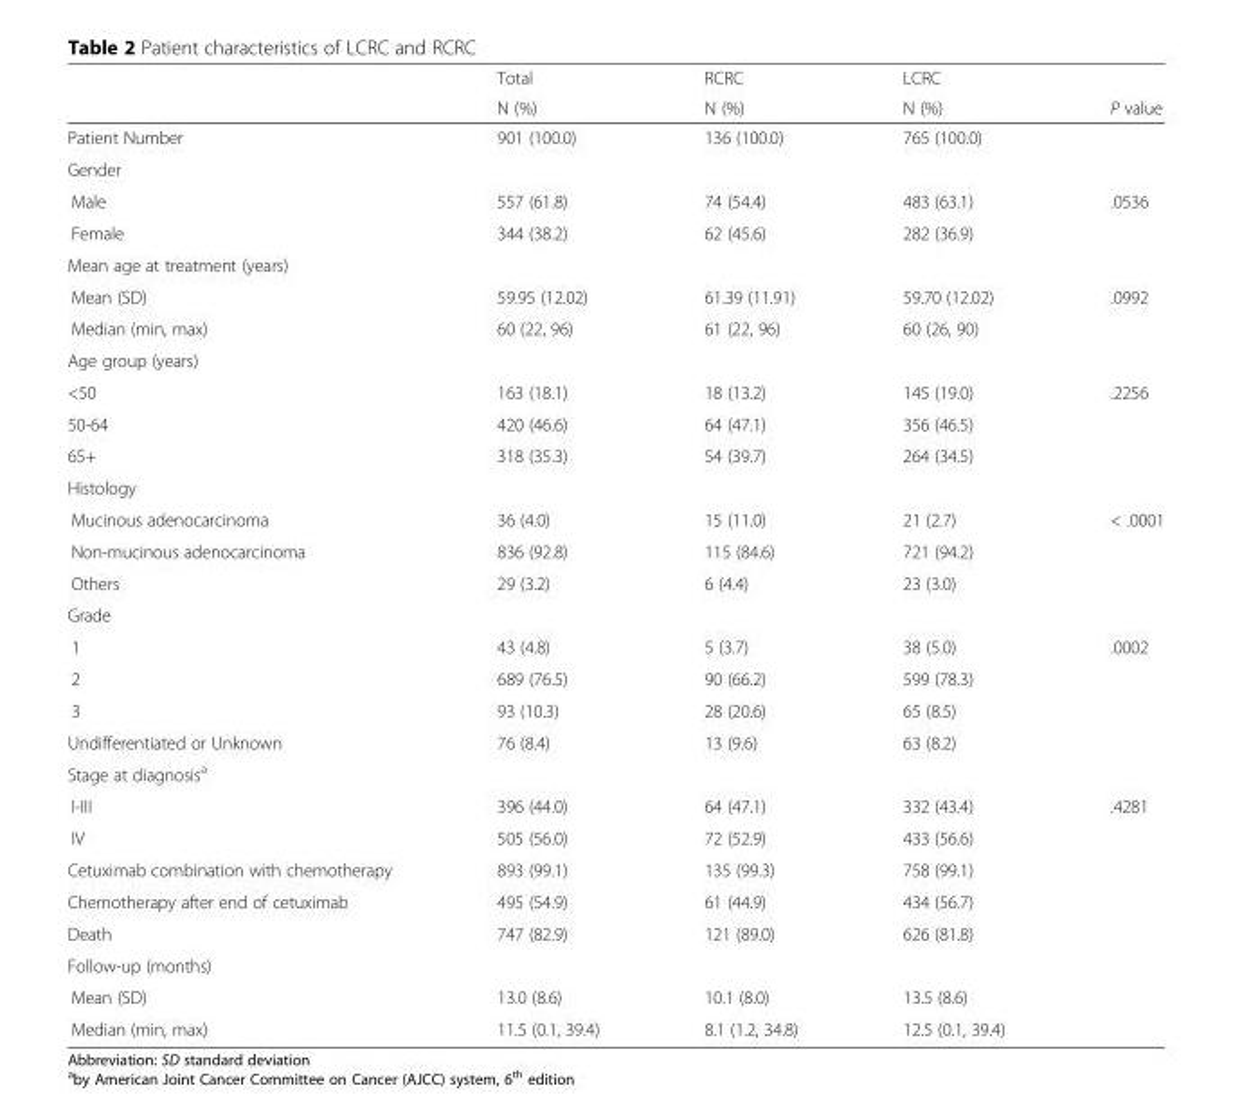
<table><thead><tr><td rowspan="2"></td><td rowspan="2">Total N (%)</td><td rowspan="2">RCRC N (%)</td><td rowspan="2">LCRC N (%)</td><td rowspan="2">P value</td></tr><tr></tr></thead><tbody><tr><td>Patient Number</td><td>901 (100.0)</td><td>136 (100.0)</td><td>765 (100.0)</td><td></td></tr><tr><td colspan="5">Gender</td></tr><tr><td>Male</td><td>557 (61.8)</td><td>74 (54.4)</td><td>483 (63.1)</td><td>.0536</td></tr><tr><td>Female</td><td>344 (38.2)</td><td>62 (45.6)</td><td>282 (36.9)</td><td></td></tr><tr><td colspan="5">Mean age at treatment (years)</td></tr><tr><td>Mean (SD)</td><td>59.95 (12.02)</td><td>61.39 (11.91)</td><td>59.70 (12.02)</td><td>.0992</td></tr><tr><td>Median (min, max)</td><td>60 (22, 96)</td><td>61 (22, 96)</td><td>60 (26, 90)</td><td></td></tr><tr><td colspan="5">Age group (years)</td></tr><tr><td>&lt;50</td><td>163 (18.1)</td><td>18 (13.2)</td><td>145 (19.0)</td><td>.2256</td></tr><tr><td>50-64</td><td>420 (46.6)</td><td>64 (47.1)</td><td>356 (46.5)</td><td></td></tr><tr><td>65+</td><td>318 (35.3)</td><td>54 (39.7)</td><td>264 (34.5)</td><td></td></tr><tr><td colspan="5">Histology</td></tr><tr><td>Mucinous adenocarcinoma</td><td>36 (4.0)</td><td>15 (11.0)</td><td>21 (2.7)</td><td>&lt; .0001</td></tr><tr><td>Non-mucinous adenocarcinoma</td><td>836 (92.8)</td><td>115 (84.6)</td><td>721 (94.2)</td><td></td></tr><tr><td>Others</td><td>29 (3.2)</td><td>6 (4.4)</td><td>23 (3.0)</td><td></td></tr><tr><td colspan="5">Grade</td></tr><tr><td>1</td><td>43 (4.8)</td><td>5 (3.7)</td><td>38 (5.0)</td><td>.0002</td></tr><tr><td>2</td><td>689 (76.5)</td><td>90 (66.2)</td><td>599 (78.3)</td><td></td></tr><tr><td>3</td><td>93 (10.3)</td><td>28 (20.6)</td><td>65 (8.5)</td><td></td></tr><tr><td>Undifferentiated or Unknown</td><td>76 (8.4)</td><td>13 (9.6)</td><td>63 (8.2)</td><td></td></tr><tr><td colspan="5">Stage at diagnosis<sup>a</sup></td></tr><tr><td>I-III</td><td>396 (44.0)</td><td>64 (47.1)</td><td>332 (43.4)</td><td>.4281</td></tr><tr><td>IV</td><td>505 (56.0)</td><td>72 (52.9)</td><td>433 (56.6)</td><td></td></tr><tr><td>Cetuximab combination with chemotherapy</td><td>893 (99.1)</td><td>135 (99.3)</td><td>758 (99.1)</td><td></td></tr><tr><td>Chemotherapy after end of cetuximab</td><td>495 (54.9)</td><td>61 (44.9)</td><td>434 (56.7)</td><td></td></tr><tr><td>Death</td><td>747 (82.9)</td><td>121 (89.0)</td><td>626 (81.8)</td><td></td></tr><tr><td colspan="5">Follow-up (months)</td></tr><tr><td>Mean (SD)</td><td>13.0 (8.6)</td><td>10.1 (8.0)</td><td>13.5 (8.6)</td><td></td></tr><tr><td>Median (min, max)</td><td>11.5 (0.1, 39.4)</td><td>8.1 (1.2, 34.8)</td><td>12.5 (0.1, 39.4)</td><td></td></tr></tbody></table>